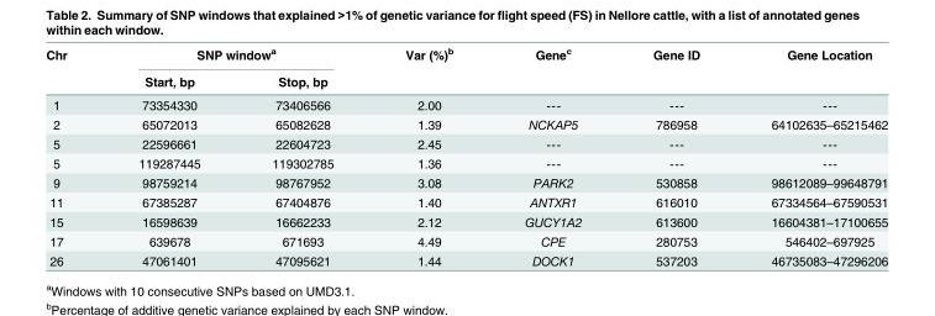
<table><thead><tr><td rowspan="2">Chr</td><td colspan="2">SNP window<sup>a</sup></td><td rowspan="2">Var (%)<sup>b</sup></td><td rowspan="2">Gene<sup>c</sup></td><td rowspan="2">Gene ID</td><td rowspan="2">Gene Location</td></tr><tr><td>Start, bp</td><td>Stop, bp</td></tr></thead><tbody><tr><td>1</td><td>73354330</td><td>73406566</td><td>2.00</td><td>---</td><td>---</td><td>---</td></tr><tr><td>2</td><td>65072013</td><td>65082628</td><td>1.39</td><td>NCKAP5</td><td>786958</td><td>64102635–65215462</td></tr><tr><td>5</td><td>22596661</td><td>22604723</td><td>2.45</td><td>---</td><td>---</td><td>---</td></tr><tr><td>5</td><td>119287445</td><td>119302785</td><td>1.36</td><td>---</td><td>---</td><td>---</td></tr><tr><td>9</td><td>98759214</td><td>98767952</td><td>3.08</td><td>PARK2</td><td>530858</td><td>98612089–99648791</td></tr><tr><td>11</td><td>67385287</td><td>67404876</td><td>1.40</td><td>ANTXR1</td><td>616010</td><td>67334564–67590531</td></tr><tr><td>15</td><td>16598639</td><td>16662233</td><td>2.12</td><td>GUCY1A2</td><td>613600</td><td>16604381–17100655</td></tr><tr><td>17</td><td>639678</td><td>671693</td><td>4.49</td><td>CPE</td><td>280753</td><td>546402–697925</td></tr><tr><td>26</td><td>47061401</td><td>47095621</td><td>1.44</td><td>DOCK1</td><td>537203</td><td>46735083–47296206</td></tr></tbody></table>